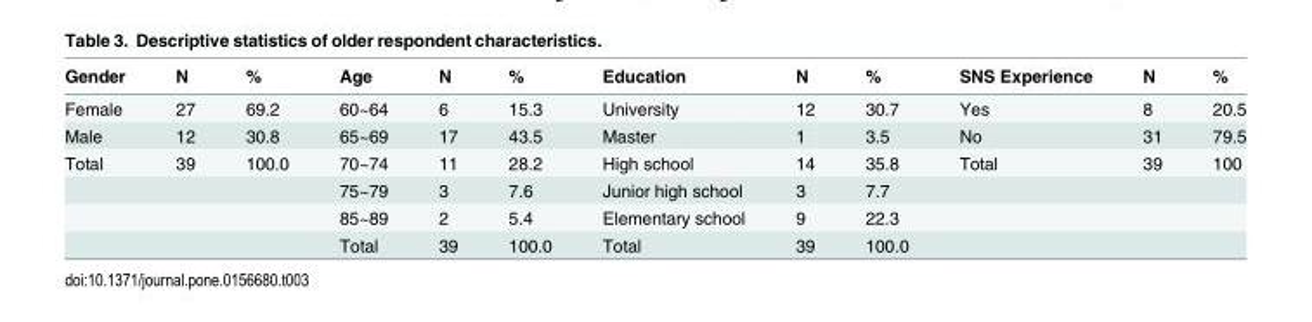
<table><thead><tr><td>Gender</td><td>N</td><td>%</td><td>Age</td><td>N</td><td>%</td><td>Education</td><td>N</td><td>%</td><td>SNS Experience</td><td>N</td><td>%</td></tr></thead><tbody><tr><td>Female</td><td>27</td><td>69.2</td><td>60~64</td><td>6</td><td>15.3</td><td>University</td><td>12</td><td>30.7</td><td>Yes</td><td>8</td><td>20.5</td></tr><tr><td>Male</td><td>12</td><td>30.8</td><td>65~69</td><td>17</td><td>43.5</td><td>Master</td><td>1</td><td>3.5</td><td>No</td><td>31</td><td>79.5</td></tr><tr><td rowspan="4">Total</td><td>39</td><td>100.0</td><td>70~74</td><td>11</td><td>28.2</td><td>High school</td><td>14</td><td>35.8</td><td>Total</td><td>39</td><td>100</td></tr><tr><td></td><td></td><td>75~79</td><td>3</td><td>7.6</td><td>Junior high school</td><td>3</td><td>7.7</td><td></td><td></td><td></td></tr><tr><td></td><td></td><td>85~89</td><td>2</td><td>5.4</td><td>Elementary school</td><td>9</td><td>22.3</td><td></td><td></td><td></td></tr><tr><td></td><td></td><td>Total</td><td>39</td><td>100.0</td><td>Total</td><td>39</td><td>100.0</td><td></td><td></td><td></td></tr></tbody></table>